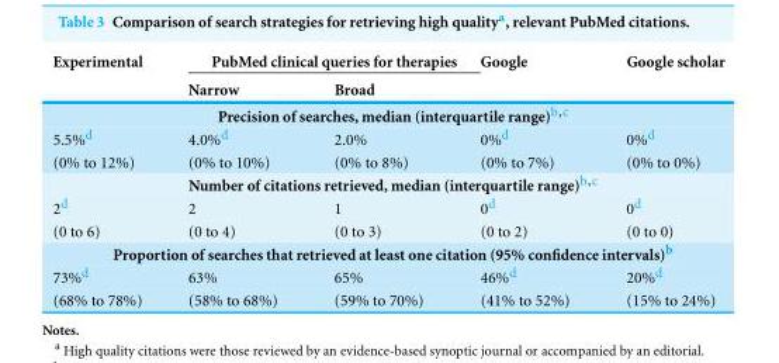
<table><thead><tr><td rowspan="2">Experimental</td><td colspan="2">PubMed clinical queries for therapies</td><td rowspan="2">Google</td><td rowspan="2">Google scholar</td></tr><tr><td>Narrow</td><td>Broad</td></tr></thead><tbody><tr><td colspan="5">Precision of searches, median (interquartile range)<sup>b,c</sup></td></tr><tr><td>5.5%<sup>d</sup></td><td>4.0%<sup>d</sup></td><td>2.0%</td><td>0%<sup>d</sup></td><td>0%<sup>d</sup></td></tr><tr><td>(0% to 12%)</td><td>(0% to 10%)</td><td>(0% to 8%)</td><td>(0% to 7%)</td><td>(0% to 0%)</td></tr><tr><td colspan="5">Number of citations retrieved, median (interquartile range)<sup>b,c</sup></td></tr><tr><td>2<sup>d</sup></td><td>2</td><td>1</td><td>0<sup>d</sup></td><td>0<sup>d</sup></td></tr><tr><td>(0 to 6)</td><td>(0 to 4)</td><td>(0 to 3)</td><td>(0 to 2)</td><td>(0 to 0)</td></tr><tr><td colspan="5">Proportion of searches that retrieved at least one citation (95% confidence intervals)<sup>b</sup></td></tr><tr><td>73%<sup>d</sup></td><td>63%</td><td>65%</td><td>46%<sup>d</sup></td><td>20%<sup>d</sup></td></tr><tr><td>(68% to 78%)</td><td>(58% to 68%)</td><td>(59% to 70%)</td><td>(41% to 52%)</td><td>(15% to 24%)</td></tr></tbody></table>